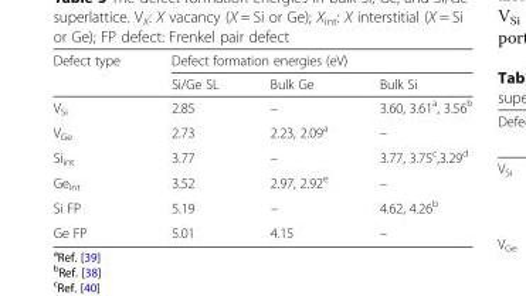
<table><thead><tr><td rowspan="2">Defect type</td><td colspan="3">Defect formation energies (eV)</td></tr><tr><td>Si/Ge SL</td><td>Bulk Ge</td><td>Bulk Si</td></tr></thead><tbody><tr><td>V<sub>Si</sub></td><td>2.85</td><td>–</td><td>3.60, 3.61<sup>a</sup>, 3.56<sup>b</sup></td></tr><tr><td>V<sub>Ge</sub></td><td>2.73</td><td>2.23, 2.09<sup>a</sup></td><td>–</td></tr><tr><td>Si<sub>int</sub></td><td>3.77</td><td>–</td><td>3.77, 3.75<sup>c</sup>,3.29<sup>d</sup></td></tr><tr><td>Ge<sub>int</sub></td><td>3.52</td><td>2.97, 2.92<sup>e</sup></td><td>–</td></tr><tr><td>Si FP</td><td>5.19</td><td>–</td><td>4.62, 4.26<sup>b</sup></td></tr><tr><td>Ge FP</td><td>5.01</td><td>4.15</td><td>–</td></tr></tbody></table>